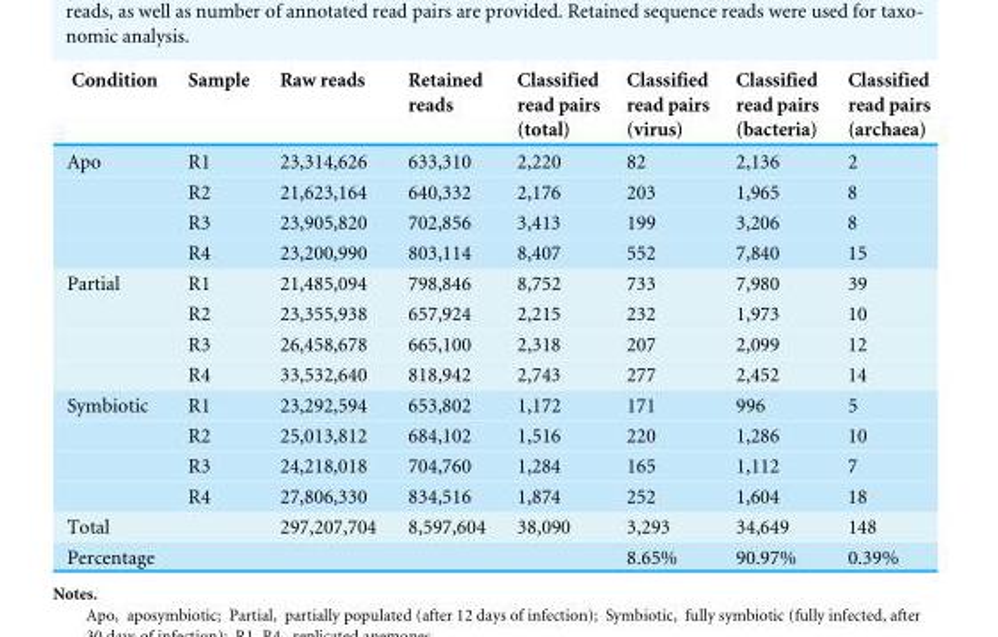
<table><thead><tr><td>Condition</td><td>Sample</td><td>Raw reads</td><td>Retained reads</td><td>Classified read pairs (total)</td><td>Classified read pairs (virus)</td><td>Classified read pairs (bacteria)</td><td>Classified read pairs (archaea)</td></tr></thead><tbody><tr><td rowspan="4">Apo</td><td>R1</td><td>23,314,626</td><td>633,310</td><td>2,220</td><td>82</td><td>2,136</td><td>2</td></tr><tr><td>R2</td><td>21,623,164</td><td>640,332</td><td>2,176</td><td>203</td><td>1,965</td><td>8</td></tr><tr><td>R3</td><td>23,905,820</td><td>702,856</td><td>3,413</td><td>199</td><td>3,206</td><td>8</td></tr><tr><td>R4</td><td>23,200,990</td><td>803,114</td><td>8,407</td><td>552</td><td>7,840</td><td>15</td></tr><tr><td rowspan="4">Partial</td><td>R1</td><td>21,485,094</td><td>798,846</td><td>8,752</td><td>733</td><td>7,980</td><td>39</td></tr><tr><td>R2</td><td>23,355,938</td><td>657,924</td><td>2,215</td><td>232</td><td>1,973</td><td>10</td></tr><tr><td>R3</td><td>26,458,678</td><td>665,100</td><td>2,318</td><td>207</td><td>2,099</td><td>12</td></tr><tr><td>R4</td><td>33,532,640</td><td>818,942</td><td>2,743</td><td>277</td><td>2,452</td><td>14</td></tr><tr><td rowspan="4">Symbiotic</td><td>R1</td><td>23,292,594</td><td>653,802</td><td>1,172</td><td>171</td><td>996</td><td>5</td></tr><tr><td>R2</td><td>25,013,812</td><td>684,102</td><td>1,516</td><td>220</td><td>1,286</td><td>10</td></tr><tr><td>R3</td><td>24,218,018</td><td>704,760</td><td>1,284</td><td>165</td><td>1,112</td><td>7</td></tr><tr><td>R4</td><td>27,806,330</td><td>834,516</td><td>1,874</td><td>252</td><td>1,604</td><td>18</td></tr><tr><td>Total</td><td></td><td>297,207,704</td><td>8,597,604</td><td>38,090</td><td>3,293</td><td>34,649</td><td>148</td></tr><tr><td>Percentage</td><td></td><td></td><td></td><td></td><td>8.65%</td><td>90.97%</td><td>0.39%</td></tr></tbody></table>